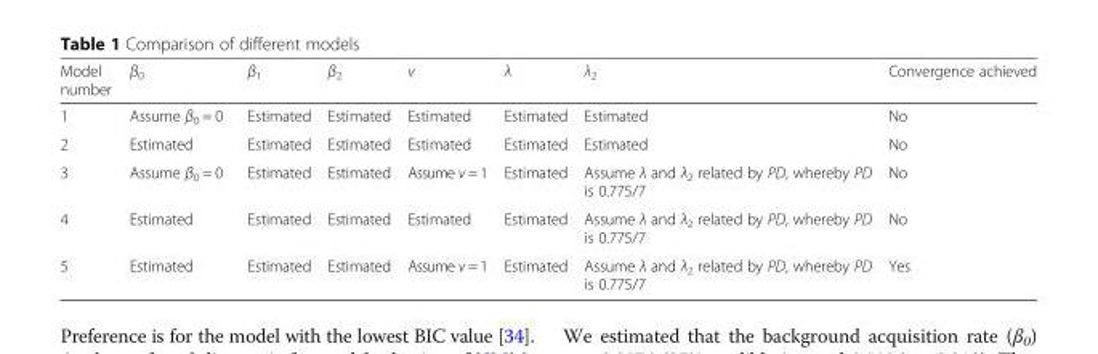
<table><thead><tr><td>Model number</td><td>β<sub>0</sub></td><td>β<sub>1</sub></td><td>β<sub>2</sub></td><td>v</td><td>λ</td><td>λ<sub>2</sub></td><td>Convergence achieved</td></tr></thead><tbody><tr><td>1</td><td>Assume β<sub>0</sub> = 0</td><td>Estimated</td><td>Estimated</td><td>Estimated</td><td>Estimated</td><td>Estimated</td><td>No</td></tr><tr><td>2</td><td>Estimated</td><td>Estimated</td><td>Estimated</td><td>Estimated</td><td>Estimated</td><td>Estimated</td><td>No</td></tr><tr><td>3</td><td>Assume β<sub>0</sub> = 0</td><td>Estimated</td><td>Estimated</td><td>Assume v = 1</td><td>Estimated</td><td>Assume λ and λ<sub>2</sub> related by PD, whereby PD is 0.775/7</td><td>No</td></tr><tr><td>4</td><td>Estimated</td><td>Estimated</td><td>Estimated</td><td>Estimated</td><td>Estimated</td><td>Assume λ and λ<sub>2</sub> related by PD, whereby PD is 0.775/7</td><td>No</td></tr><tr><td>5</td><td>Estimated</td><td>Estimated</td><td>Estimated</td><td>Assume v = 1</td><td>Estimated</td><td>Assume λ and λ<sub>2</sub> related by PD, whereby PD is 0.775/7</td><td>Yes</td></tr></tbody></table>